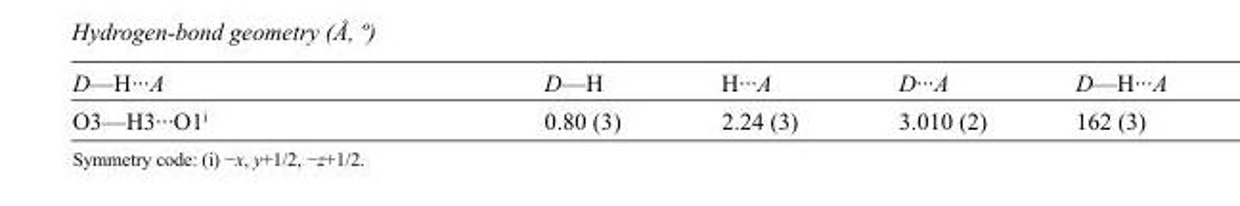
<table><tbody><tr><td>D—H···A</td><td>D—H</td><td>H···A</td><td>D···A</td><td>D—H···A</td></tr><tr><td>O3—H3···O1<sup>i</sup></td><td>0.80 (3)</td><td>2.24 (3)</td><td>3.010 (2)</td><td>162 (3)</td></tr></tbody></table>